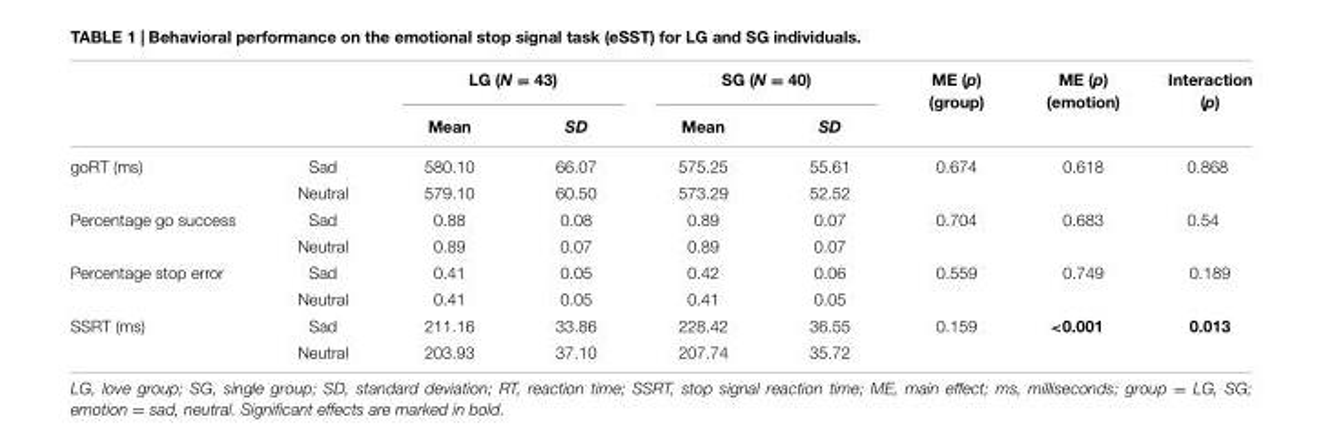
<table><thead><tr><td rowspan="2"></td><td rowspan="2"></td><td colspan="2">LG (N = 43)</td><td colspan="2">SG (N = 40)</td><td rowspan="2">ME (p) (group)</td><td rowspan="2">ME (p) (emotion)</td><td rowspan="2">Interaction (p)</td></tr><tr><td>Mean</td><td>SD</td><td>Mean</td><td>SD</td></tr></thead><tbody><tr><td rowspan="2">goRT (ms)</td><td>Sad</td><td>580.10</td><td>66.07</td><td>575.25</td><td>55.61</td><td>0.674</td><td>0.618</td><td>0.868</td></tr><tr><td>Neutral</td><td>579.10</td><td>60.50</td><td>573.29</td><td>52.52</td><td></td><td></td><td></td></tr><tr><td rowspan="2">Percentage go success</td><td>Sad</td><td>0.88</td><td>0.08</td><td>0.89</td><td>0.07</td><td>0.704</td><td>0.683</td><td>0.54</td></tr><tr><td>Neutral</td><td>0.89</td><td>0.07</td><td>0.89</td><td>0.07</td><td></td><td></td><td></td></tr><tr><td rowspan="2">Percentage stop error</td><td>Sad</td><td>0.41</td><td>0.05</td><td>0.42</td><td>0.06</td><td>0.559</td><td>0.749</td><td>0.189</td></tr><tr><td>Neutral</td><td>0.41</td><td>0.05</td><td>0.41</td><td>0.05</td><td></td><td></td><td></td></tr><tr><td rowspan="2">SSRT (ms)</td><td>Sad</td><td>211.16</td><td>33.86</td><td>228.42</td><td>36.55</td><td>0.159</td><td>&lt;0.001</td><td>0.013</td></tr><tr><td>Neutral</td><td>203.93</td><td>37.10</td><td>207.74</td><td>35.72</td><td></td><td></td><td></td></tr></tbody></table>